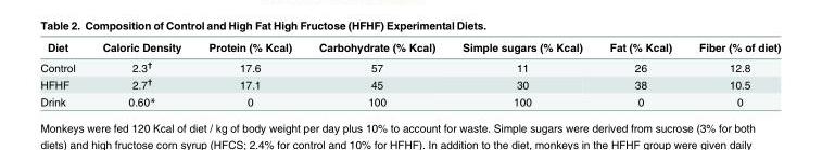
<table><thead><tr><td>Diet</td><td>Caloric Density</td><td>Protein (% Kcal)</td><td>Carbohydrate (% Kcal)</td><td>Simple sugars (% Kcal)</td><td>Fat (% Kcal)</td><td>Fiber (% of diet)</td></tr></thead><tbody><tr><td>Control</td><td>2.3<sup>†</sup></td><td>17.6</td><td>57</td><td>11</td><td>26</td><td>12.8</td></tr><tr><td>HFHF</td><td>2.7<sup>†</sup></td><td>17.1</td><td>45</td><td>30</td><td>38</td><td>10.5</td></tr><tr><td>Drink</td><td>0.60*</td><td>0</td><td>100</td><td>100</td><td>0</td><td>0</td></tr></tbody></table>